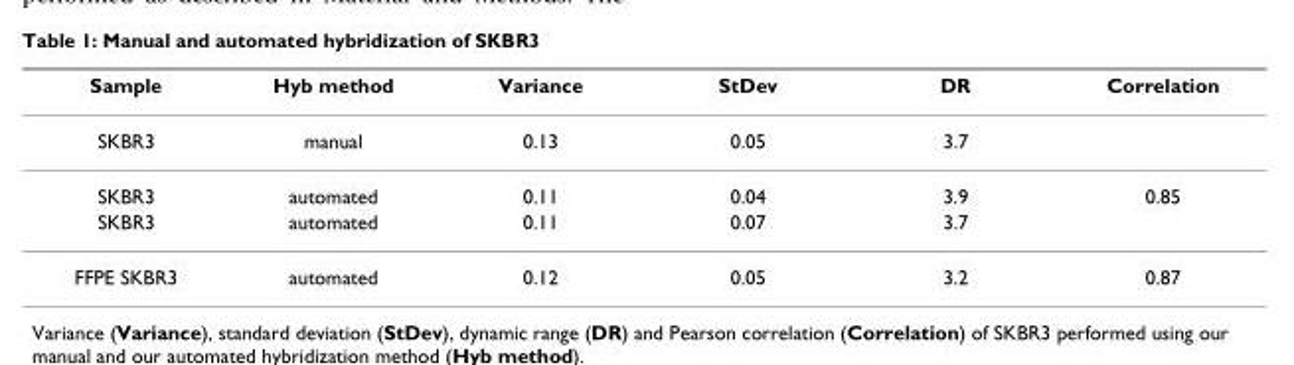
<table><thead><tr><td>Sample</td><td>Hyb method</td><td>Variance</td><td>StDev</td><td>DR</td><td>Correlation</td></tr></thead><tbody><tr><td>SKBR3</td><td>manual</td><td>0.13</td><td>0.05</td><td>3.7</td><td></td></tr><tr><td>SKBR3</td><td>automated</td><td>0.11</td><td>0.04</td><td>3.9</td><td>0.85</td></tr><tr><td>SKBR3</td><td>automated</td><td>0.11</td><td>0.07</td><td>3.7</td><td></td></tr><tr><td>FFPE SKBR3</td><td>automated</td><td>0.12</td><td>0.05</td><td>3.2</td><td>0.87</td></tr></tbody></table>